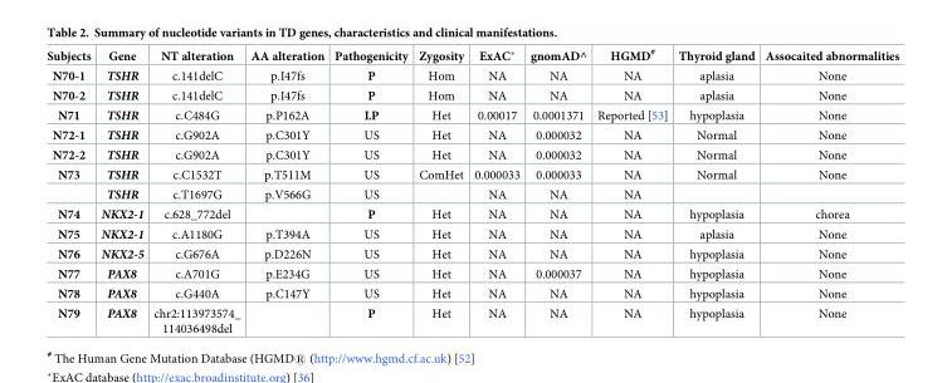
<table><thead><tr><td>Subjects</td><td>Gene</td><td>NT alteration</td><td>AA alteration</td><td>Pathogenicity</td><td>Zygosity</td><td>ExAC*</td><td>gnomAD^</td><td>HGMD<sup>#</sup></td><td>Thyroid gland</td><td>Assocaited abnormalities</td></tr></thead><tbody><tr><td>N70-1</td><td>TSHR</td><td>c.141delC</td><td>p.I47fs</td><td>P</td><td>Hom</td><td>NA</td><td>NA</td><td>NA</td><td>aplasia</td><td>None</td></tr><tr><td>N70-2</td><td>TSHR</td><td>c.141delC</td><td>p.I47fs</td><td>P</td><td>Hom</td><td>NA</td><td>NA</td><td>NA</td><td>aplasia</td><td>None</td></tr><tr><td>N71</td><td>TSHR</td><td>c.C484G</td><td>p.P162A</td><td>LP</td><td>Het</td><td>0.00017</td><td>0.0001371</td><td>Reported [53]</td><td>hypoplasia</td><td>None</td></tr><tr><td>N72-1</td><td>TSHR</td><td>c.G902A</td><td>p.C301Y</td><td>US</td><td>Het</td><td>NA</td><td>0.000032</td><td>NA</td><td>Normal</td><td>None</td></tr><tr><td>N72-2</td><td>TSHR</td><td>c.G902A</td><td>p.C301Y</td><td>US</td><td>Het</td><td>NA</td><td>0.000032</td><td>NA</td><td>Normal</td><td>None</td></tr><tr><td rowspan="2">N73</td><td>TSHR</td><td>c.C1532T</td><td>p.T511M</td><td>US</td><td>ComHet</td><td>0.000033</td><td>0.000033</td><td>NA</td><td>Normal</td><td>None</td></tr><tr><td>TSHR</td><td>c.T1697G</td><td>p.V566G</td><td>US</td><td></td><td>NA</td><td>NA</td><td>NA</td><td></td><td></td></tr><tr><td>N74</td><td>NKX2-1</td><td>c.628_772del</td><td></td><td>P</td><td>Het</td><td>NA</td><td>NA</td><td>NA</td><td>hypoplasia</td><td>chorea</td></tr><tr><td>N75</td><td>NKX2-1</td><td>c.A1180G</td><td>p.T394A</td><td>US</td><td>Het</td><td>NA</td><td>NA</td><td>NA</td><td>aplasia</td><td>None</td></tr><tr><td>N76</td><td>NKX2-5</td><td>c.G676A</td><td>p.D226N</td><td>US</td><td>Het</td><td>NA</td><td>NA</td><td>NA</td><td>hypoplasia</td><td>None</td></tr><tr><td>N77</td><td>PAX8</td><td>c.A701G</td><td>p.E234G</td><td>US</td><td>Het</td><td>NA</td><td>0.000037</td><td>NA</td><td>hypoplasia</td><td>None</td></tr><tr><td>N78</td><td>PAX8</td><td>c.G440A</td><td>p.C147Y</td><td>US</td><td>Het</td><td>NA</td><td>NA</td><td>NA</td><td>hypoplasia</td><td>None</td></tr><tr><td>N79</td><td>PAX8</td><td>chr2:113973574_ 114036498del</td><td></td><td>P</td><td>Het</td><td>NA</td><td>NA</td><td>NA</td><td>hypoplasia</td><td>None</td></tr></tbody></table>